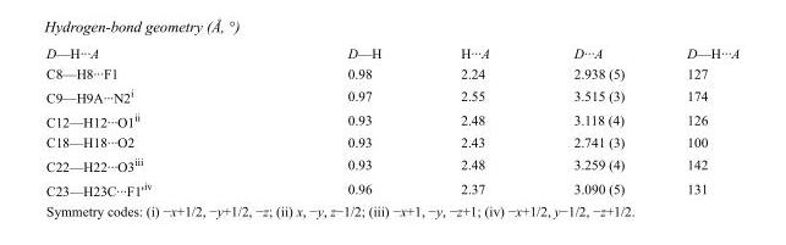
<table><tbody><tr><td>D—H···A</td><td>D—H</td><td>H···A</td><td>D···A</td><td>D—H···A</td></tr><tr><td>C8—H8···F1</td><td>0.98</td><td>2.24</td><td>2.938 (5)</td><td>127</td></tr><tr><td>C9—H9A···N2<sup>i</sup></td><td>0.97</td><td>2.55</td><td>3.515 (3)</td><td>174</td></tr><tr><td>C12—H12···O1<sup>ii</sup></td><td>0.93</td><td>2.48</td><td>3.118 (4)</td><td>126</td></tr><tr><td>C18—H18···O2</td><td>0.93</td><td>2.43</td><td>2.741 (3)</td><td>100</td></tr><tr><td>C22—H22···O3<sup>iii</sup></td><td>0.93</td><td>2.48</td><td>3.259 (4)</td><td>142</td></tr><tr><td>C23—H23C···F1&#x27;<sup>iv</sup></td><td>0.96</td><td>2.37</td><td>3.090 (5)</td><td>131</td></tr></tbody></table>